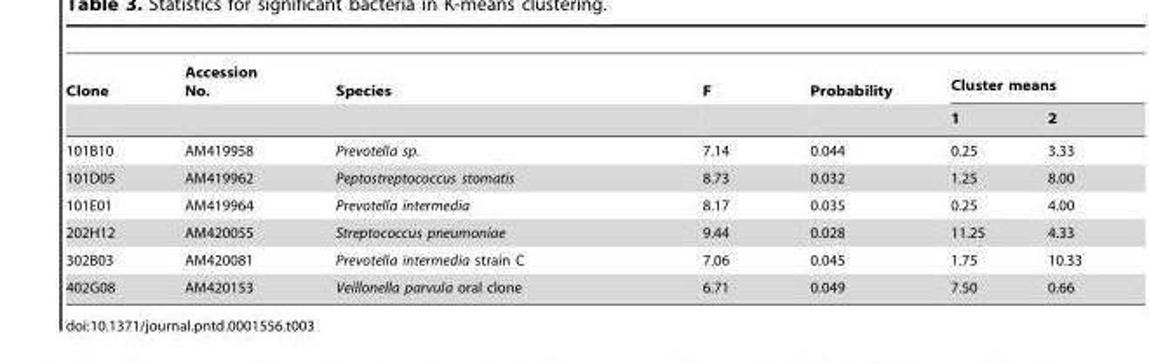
<table><thead><tr><td rowspan="2">Clone</td><td rowspan="2">Accession No.</td><td rowspan="2">Species</td><td rowspan="2">F</td><td rowspan="2">Probability</td><td colspan="2">Cluster means</td></tr><tr><td>1</td><td>2</td></tr></thead><tbody><tr><td>101B10</td><td>AM419958</td><td>Prevotella sp.</td><td>7.14</td><td>0.044</td><td>0.25</td><td>3.33</td></tr><tr><td>101D05</td><td>AM419962</td><td>Peptostreptococcus stomatis</td><td>8.73</td><td>0.032</td><td>1.25</td><td>8.00</td></tr><tr><td>101E01</td><td>AM419964</td><td>Prevotella intermedia</td><td>8.17</td><td>0.035</td><td>0.25</td><td>4.00</td></tr><tr><td>202H12</td><td>AM420055</td><td>Streptococcus pneumoniae</td><td>9.44</td><td>0.028</td><td>11.25</td><td>4.33</td></tr><tr><td>302B03</td><td>AM420081</td><td>Prevotella intermedia strain C</td><td>7.06</td><td>0.045</td><td>1.75</td><td>10.33</td></tr><tr><td>402G08</td><td>AM420153</td><td>Veillonella parvula oral clone</td><td>6.71</td><td>0.049</td><td>7.50</td><td>0.66</td></tr></tbody></table>